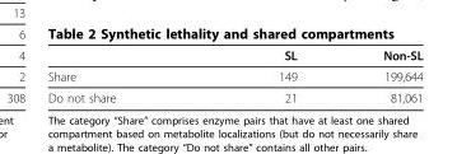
<table><thead><tr><td></td><td>SL</td><td>Non-SL</td></tr></thead><tbody><tr><td>Share</td><td>149</td><td>199,644</td></tr><tr><td>Do not share</td><td>21</td><td>81,061</td></tr></tbody></table>